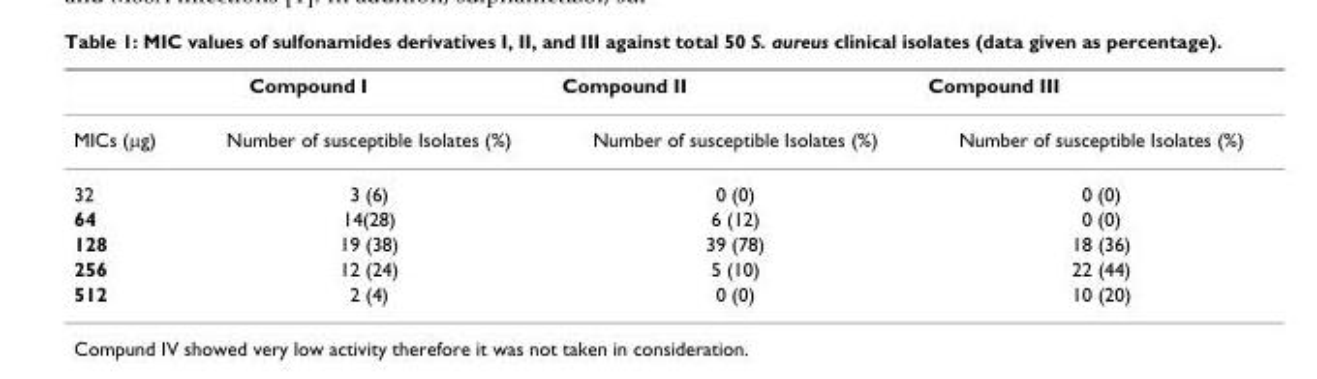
<table><thead><tr><td colspan="2">Compound I</td><td rowspan="2">Compound II Number of susceptible Isolates (%)</td><td rowspan="2">Compound III Number of susceptible Isolates (%)</td></tr><tr><td>MICs (μg)</td><td>Number of susceptible Isolates (%)</td></tr></thead><tbody><tr><td>32</td><td>3 (6)</td><td>0 (0)</td><td>0 (0)</td></tr><tr><td>64</td><td>14(28)</td><td>6 (12)</td><td>0 (0)</td></tr><tr><td>128</td><td>19 (38)</td><td>39 (78)</td><td>18 (36)</td></tr><tr><td>256</td><td>12 (24)</td><td>5 (10)</td><td>22 (44)</td></tr><tr><td>512</td><td>2 (4)</td><td>0 (0)</td><td>10 (20)</td></tr></tbody></table>